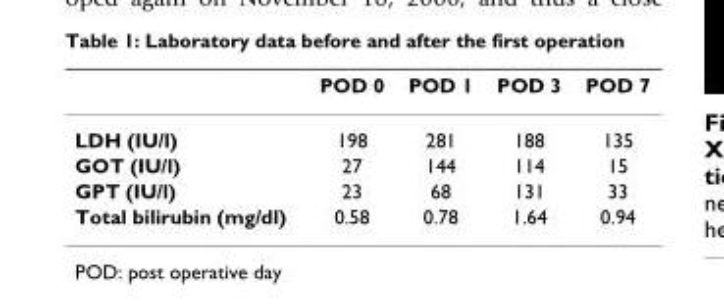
<table><thead><tr><td></td><td>POD 0</td><td>POD 1</td><td>POD 3</td><td>POD 7</td></tr></thead><tbody><tr><td>LDH (IU/l)</td><td>198</td><td>281</td><td>188</td><td>135</td></tr><tr><td>GOT (IU/l)</td><td>27</td><td>144</td><td>114</td><td>15</td></tr><tr><td>GPT (IU/l)</td><td>23</td><td>68</td><td>131</td><td>33</td></tr><tr><td>Total bilirubin (mg/dl)</td><td>0.58</td><td>0.78</td><td>1.64</td><td>0.94</td></tr></tbody></table>